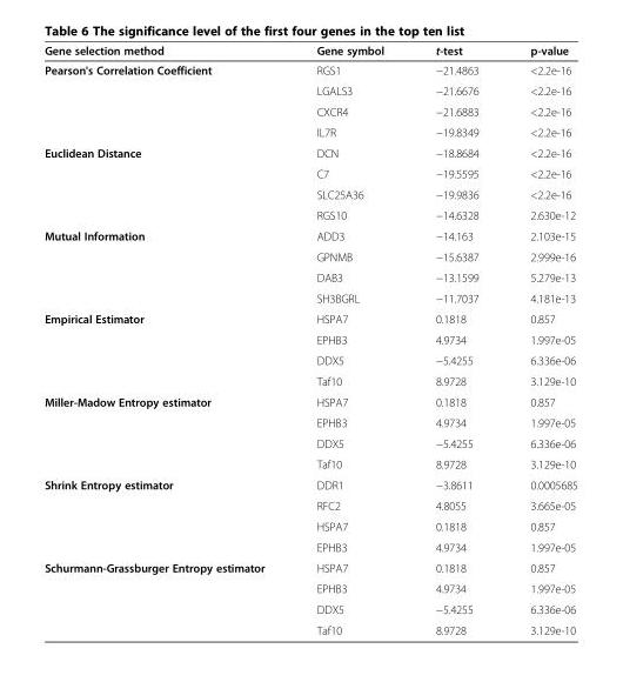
<table><thead><tr><td>Gene selection method</td><td>Gene symbol</td><td>t-test</td><td>p-value</td></tr></thead><tbody><tr><td rowspan="4">Pearson&#x27;s Correlation Coefficient</td><td>RGS1</td><td>−21.4863</td><td>&lt;2.2e-16</td></tr><tr><td>LGALS3</td><td>−21.6676</td><td>&lt;2.2e-16</td></tr><tr><td>CXCR4</td><td>−21.6883</td><td>&lt;2.2e-16</td></tr><tr><td>IL7R</td><td>−19.8349</td><td>&lt;2.2e-16</td></tr><tr><td rowspan="4">Euclidean Distance</td><td>DCN</td><td>−18.8684</td><td>&lt;2.2e-16</td></tr><tr><td>C7</td><td>−19.5595</td><td>&lt;2.2e-16</td></tr><tr><td>SLC25A36</td><td>−19.9836</td><td>&lt;2.2e-16</td></tr><tr><td>RGS10</td><td>−14.6328</td><td>2.630e-12</td></tr><tr><td rowspan="4">Mutual Information</td><td>ADD3</td><td>−14.163</td><td>2.103e-15</td></tr><tr><td>GPNMB</td><td>−15.6387</td><td>2.999e-16</td></tr><tr><td>DAB3</td><td>−13.1599</td><td>5.279e-13</td></tr><tr><td>SH3BGRL</td><td>−11.7037</td><td>4.181e-13</td></tr><tr><td rowspan="4">Empirical Estimator</td><td>HSPA7</td><td>0.1818</td><td>0.857</td></tr><tr><td>EPHB3</td><td>4.9734</td><td>1.997e-05</td></tr><tr><td>DDX5</td><td>−5.4255</td><td>6.336e-06</td></tr><tr><td>Taf10</td><td>8.9728</td><td>3.129e-10</td></tr><tr><td rowspan="4">Miller-Madow Entropy estimator</td><td>HSPA7</td><td>0.1818</td><td>0.857</td></tr><tr><td>EPHB3</td><td>4.9734</td><td>1.997e-05</td></tr><tr><td>DDX5</td><td>−5.4255</td><td>6.336e-06</td></tr><tr><td>Taf10</td><td>8.9728</td><td>3.129e-10</td></tr><tr><td rowspan="4">Shrink Entropy estimator</td><td>DDR1</td><td>−3.8611</td><td>0.0005685</td></tr><tr><td>RFC2</td><td>4.8055</td><td>3.665e-05</td></tr><tr><td>HSPA7</td><td>0.1818</td><td>0.857</td></tr><tr><td>EPHB3</td><td>4.9734</td><td>1.997e-05</td></tr><tr><td rowspan="4">Schurmann-Grassburger Entropy estimator</td><td>HSPA7</td><td>0.1818</td><td>0.857</td></tr><tr><td>EPHB3</td><td>4.9734</td><td>1.997e-05</td></tr><tr><td>DDX5</td><td>−5.4255</td><td>6.336e-06</td></tr><tr><td>Taf10</td><td>8.9728</td><td>3.129e-10</td></tr></tbody></table>